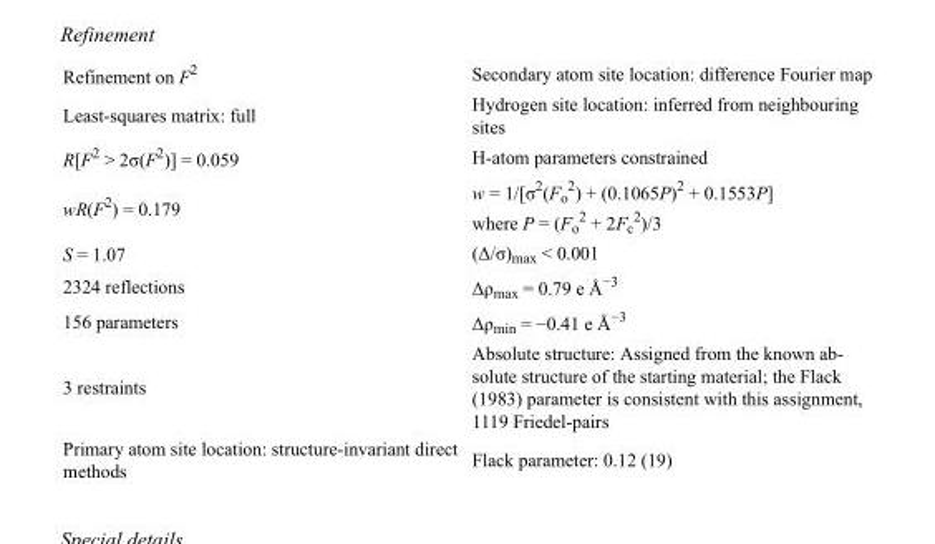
<table><tbody><tr><td>Refinement on F<sup>2</sup></td><td>Secondary atom site location: difference Fourier map</td></tr><tr><td>Least-squares matrix: full</td><td>Hydrogen site location: inferred from neighbouring sites</td></tr><tr><td>R[F<sup>2</sup> &gt; 2σ(F<sup>2</sup>)] = 0.059</td><td>H-atom parameters constrained</td></tr><tr><td>wR(F<sup>2</sup>) = 0.179</td><td>w = 1/[σ<sup>2</sup>(F<sub>o</sub> <sup>2</sup>) + (0.1065P)<sup>2</sup> + 0.1553P] where P = (F<sub>o</sub> <sup>2</sup> + 2F<sub>c</sub> <sup>2</sup>)/3</td></tr><tr><td>S = 1.07</td><td>(Δ/σ)<sub>max</sub> &lt; 0.001</td></tr><tr><td>2324 reflections</td><td>Δρ<sub>max</sub> = 0.79 e Å<sup>−3</sup></td></tr><tr><td>156 parameters</td><td>Δρ<sub>min</sub> = −0.41 e Å<sup>−3</sup></td></tr><tr><td>3 restraints</td><td>Absolute structure: Assigned from the known ab- solute structure of the starting material; the Flack (1983) parameter is consistent with this assignment, 1119 Friedel-pairs</td></tr><tr><td>Primary atom site location: structure-invariant direct methods</td><td>Flack parameter: 0.12 (19)</td></tr></tbody></table>